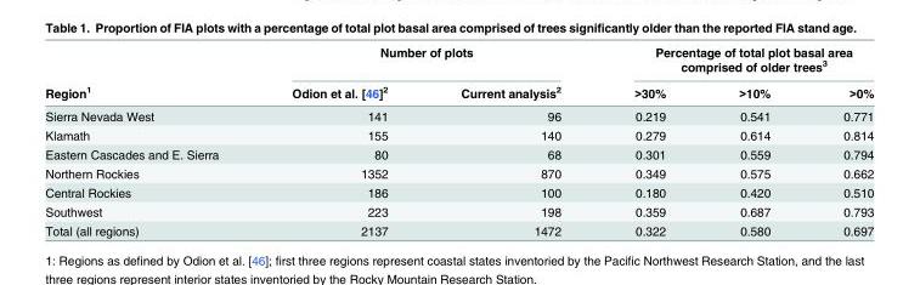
<table><thead><tr><td rowspan="2">Region<sup>1</sup></td><td colspan="2">Number of plots</td><td colspan="3">Percentage of total plot basal area comprised of older trees<sup>3</sup></td></tr><tr><td>Odion et al. [46]<sup>2</sup></td><td>Current analysis<sup>2</sup></td><td>&gt;30%</td><td>&gt;10%</td><td>&gt;0%</td></tr></thead><tbody><tr><td>Sierra Nevada West</td><td>141</td><td>96</td><td>0.219</td><td>0.541</td><td>0.771</td></tr><tr><td>Klamath</td><td>155</td><td>140</td><td>0.279</td><td>0.614</td><td>0.814</td></tr><tr><td>Eastern Cascades and E. Sierra</td><td>80</td><td>68</td><td>0.301</td><td>0.559</td><td>0.794</td></tr><tr><td>Northern Rockies</td><td>1352</td><td>870</td><td>0.349</td><td>0.575</td><td>0.662</td></tr><tr><td>Central Rockies</td><td>186</td><td>100</td><td>0.180</td><td>0.420</td><td>0.510</td></tr><tr><td>Southwest</td><td>223</td><td>198</td><td>0.359</td><td>0.687</td><td>0.793</td></tr><tr><td>Total (all regions)</td><td>2137</td><td>1472</td><td>0.322</td><td>0.580</td><td>0.697</td></tr></tbody></table>